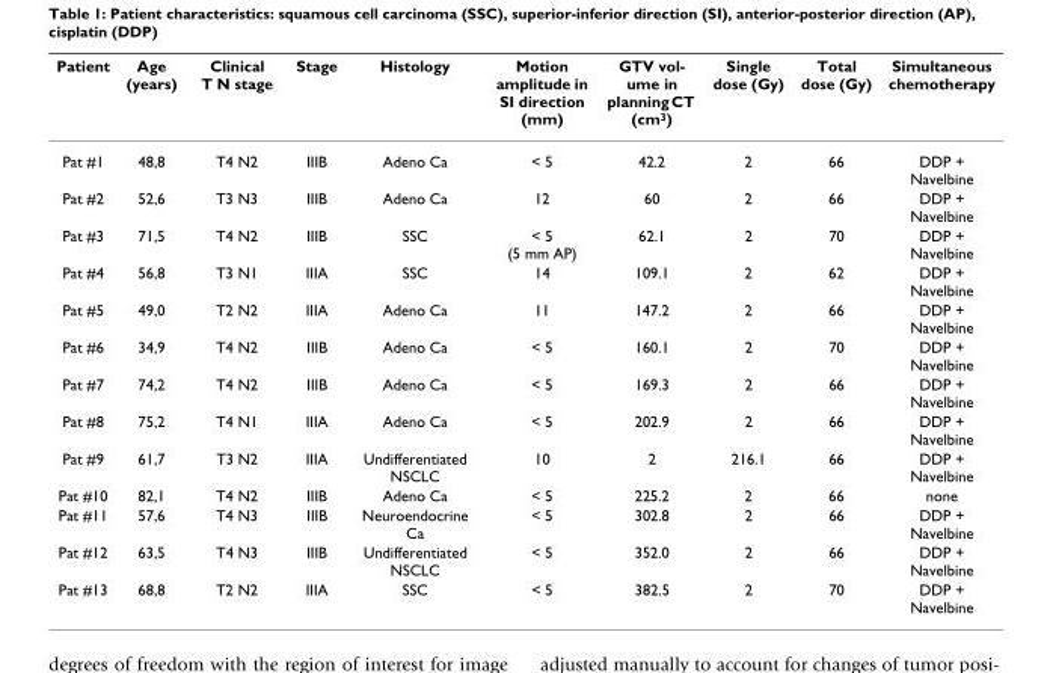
<table><thead><tr><td>Patient</td><td>Age (years)</td><td>Clinical T N stage</td><td>Stage</td><td>Histology</td><td>Motion amplitude in SI direction (mm)</td><td>GTV vol- ume in planning CT (cm3)</td><td>Single dose (Gy)</td><td>Total dose (Gy)</td><td>Simultaneous chemotherapy</td></tr></thead><tbody><tr><td>Pat #1</td><td>48,8</td><td>T4 N2</td><td>IIIB</td><td>Adeno Ca</td><td>&lt; 5</td><td>42.2</td><td>2</td><td>66</td><td>DDP + Navelbine</td></tr><tr><td>Pat #2</td><td>52,6</td><td>T3 N3</td><td>IIIB</td><td>Adeno Ca</td><td>12</td><td>60</td><td>2</td><td>66</td><td>DDP + Navelbine</td></tr><tr><td>Pat #3</td><td>71,5</td><td>T4 N2</td><td>IIIB</td><td>SSC</td><td>&lt; 5 (5 mm AP)</td><td>62.1</td><td>2</td><td>70</td><td>DDP + Navelbine</td></tr><tr><td>Pat #4</td><td>56,8</td><td>T3 N1</td><td>IIIA</td><td>SSC</td><td>14</td><td>109.1</td><td>2</td><td>62</td><td>DDP + Navelbine</td></tr><tr><td>Pat #5</td><td>49,0</td><td>T2 N2</td><td>IIIA</td><td>Adeno Ca</td><td>11</td><td>147.2</td><td>2</td><td>66</td><td>DDP + Navelbine</td></tr><tr><td>Pat #6</td><td>34,9</td><td>T4 N2</td><td>IIIB</td><td>Adeno Ca</td><td>&lt; 5</td><td>160.1</td><td>2</td><td>70</td><td>DDP + Navelbine</td></tr><tr><td>Pat #7</td><td>74,2</td><td>T4 N2</td><td>IIIB</td><td>Adeno Ca</td><td>&lt; 5</td><td>169.3</td><td>2</td><td>66</td><td>DDP + Navelbine</td></tr><tr><td>Pat #8</td><td>75,2</td><td>T4 N1</td><td>IIIA</td><td>Adeno Ca</td><td>&lt; 5</td><td>202.9</td><td>2</td><td>66</td><td>DDP + Navelbine</td></tr><tr><td>Pat #9</td><td>61,7</td><td>T3 N2</td><td>IIIA</td><td>Undifferentiated NSCLC</td><td>10</td><td>2</td><td>216.1</td><td>66</td><td>DDP + Navelbine</td></tr><tr><td>Pat #10</td><td>82,1</td><td>T4 N2</td><td>IIIB</td><td>Adeno Ca</td><td>&lt; 5</td><td>225.2</td><td>2</td><td>66</td><td>none</td></tr><tr><td>Pat #11</td><td>57,6</td><td>T4 N3</td><td>IIIB</td><td>Neuroendocrine Ca</td><td>&lt; 5</td><td>302.8</td><td>2</td><td>66</td><td>DDP + Navelbine</td></tr><tr><td>Pat #12</td><td>63,5</td><td>T4 N3</td><td>IIIB</td><td>Undifferentiated NSCLC</td><td>&lt; 5</td><td>352.0</td><td>2</td><td>66</td><td>DDP + Navelbine</td></tr><tr><td>Pat #13</td><td>68,8</td><td>T2 N2</td><td>IIIA</td><td>SSC</td><td>&lt; 5</td><td>382.5</td><td>2</td><td>70</td><td>DDP + Navelbine</td></tr></tbody></table>